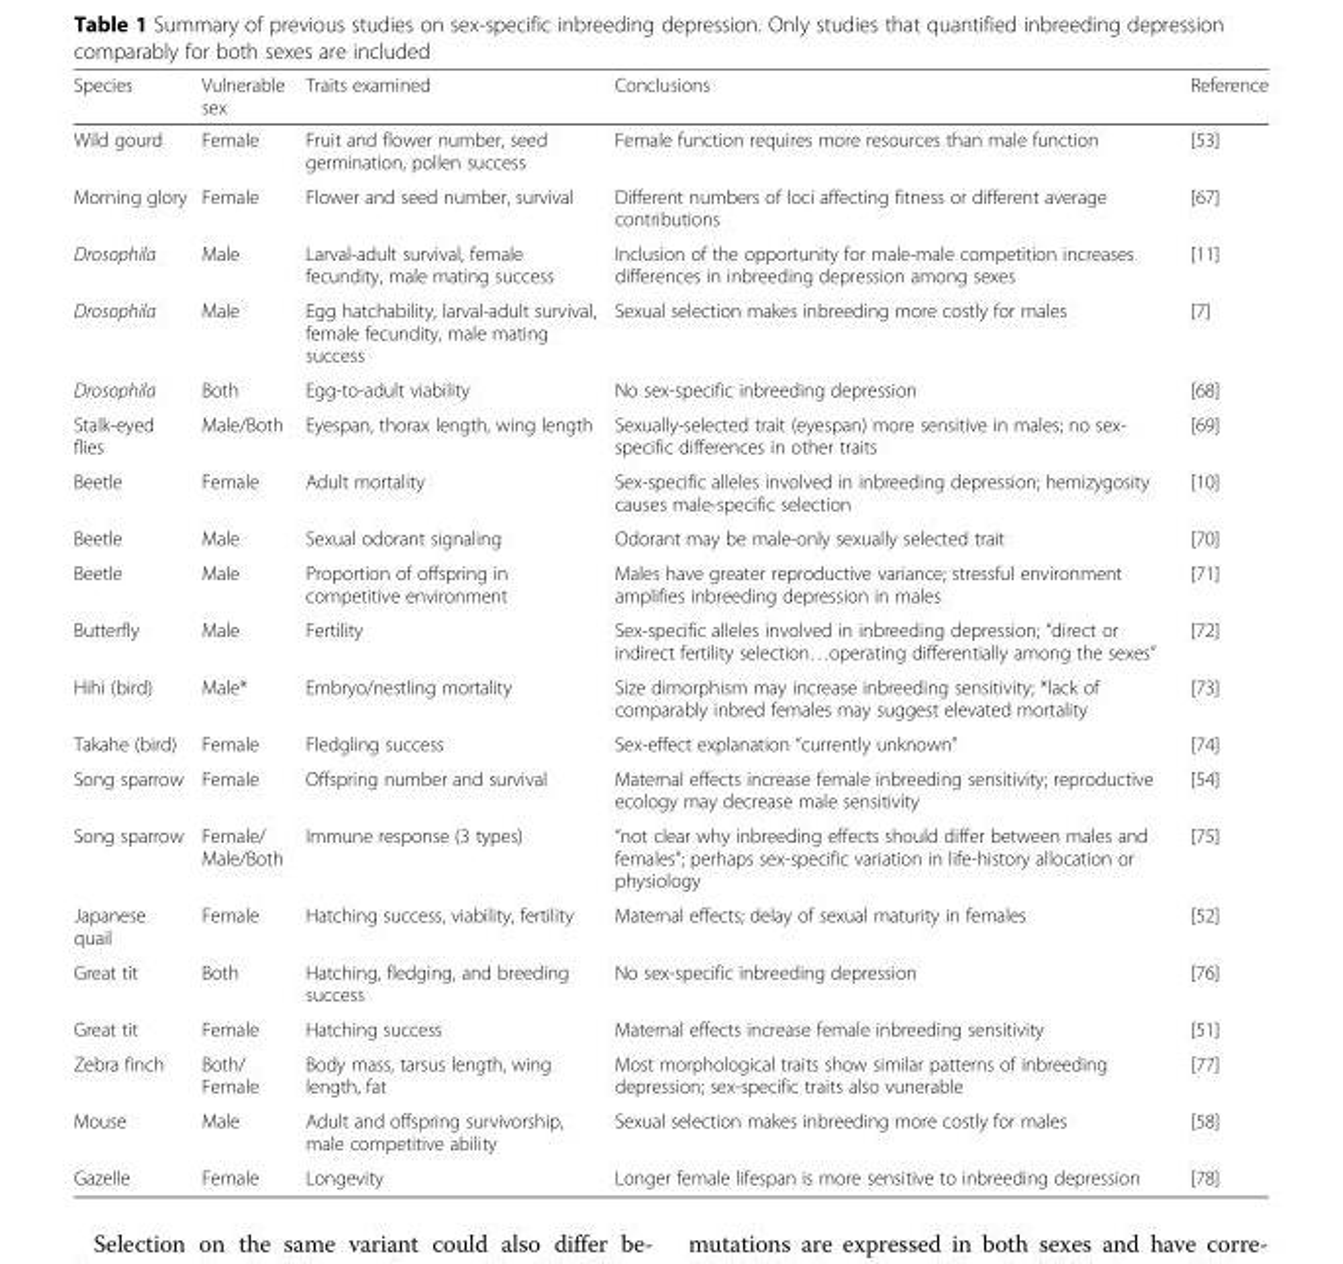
<table><thead><tr><td>Species</td><td>Vulnerable sex</td><td>Traits examined</td><td>Conclusions</td><td>Reference</td></tr></thead><tbody><tr><td>Wild gourd</td><td>Female</td><td>Fruit and flower number, seed germination, pollen success</td><td>Female function requires more resources than male function</td><td>[53]</td></tr><tr><td>Morning glory</td><td>Female</td><td>Flower and seed number, survival</td><td>Different numbers of loci affecting fitness or different average contributions</td><td>[67]</td></tr><tr><td>Drosophila</td><td>Male</td><td>Larval-adult survival, female fecundity, male mating success</td><td>Inclusion of the opportunity for male-male competition increases differences in inbreeding depression among sexes</td><td>[11]</td></tr><tr><td>Drosophila</td><td>Male</td><td>Egg hatchability, larval-adult survival, female fecundity, male mating success</td><td>Sexual selection makes inbreeding more costly for males</td><td>[7]</td></tr><tr><td>Drosophila</td><td>Both</td><td>Egg-to-adult viability</td><td>No sex-specific inbreeding depression</td><td>[68]</td></tr><tr><td>Stalk-eyed flies</td><td>Male/Both</td><td>Eyespan, thorax length, wing length</td><td>Sexually-selected trait (eyespan) more sensitive in males; no sex- specific differences in other traits</td><td>[69]</td></tr><tr><td>Beetle</td><td>Female</td><td>Adult mortality</td><td>Sex-specific alleles involved in inbreeding depression; hemizygosity causes male-specific selection</td><td>[10]</td></tr><tr><td>Beetle</td><td>Male</td><td>Sexual odorant signaling</td><td>Odorant may be male-only sexually selected trait</td><td>[70]</td></tr><tr><td>Beetle</td><td>Male</td><td>Proportion of offspring in competitive environment</td><td>Males have greater reproductive variance; stressful environment amplifies inbreeding depression in males</td><td>[71]</td></tr><tr><td>Butterfly</td><td>Male</td><td>Fertility</td><td>Sex-specific alleles involved in inbreeding depression; “direct or indirect fertility selection…operating differentially among the sexes”</td><td>[72]</td></tr><tr><td>Hihi (bird)</td><td>Male*</td><td>Embryo/nestling mortality</td><td>Size dimorphism may increase inbreeding sensitivity; *lack of comparably inbred females may suggest elevated mortality</td><td>[73]</td></tr><tr><td>Takahe (bird)</td><td>Female</td><td>Fledgling success</td><td>Sex-effect explanation “currently unknown”</td><td>[74]</td></tr><tr><td>Song sparrow</td><td>Female</td><td>Offspring number and survival</td><td>Maternal effects increase female inbreeding sensitivity; reproductive ecology may decrease male sensitivity</td><td>[54]</td></tr><tr><td>Song sparrow</td><td>Female/ Male/Both</td><td>Immune response (3 types)</td><td>“not clear why inbreeding effects should differ between males and females”; perhaps sex-specific variation in life-history allocation or physiology</td><td>[75]</td></tr><tr><td>Japanese quail</td><td>Female</td><td>Hatching success, viability, fertility</td><td>Maternal effects; delay of sexual maturity in females</td><td>[52]</td></tr><tr><td>Great tit</td><td>Both</td><td>Hatching, fledging, and breeding success</td><td>No sex-specific inbreeding depression</td><td>[76]</td></tr><tr><td>Great tit</td><td>Female</td><td>Hatching success</td><td>Maternal effects increase female inbreeding sensitivity</td><td>[51]</td></tr><tr><td>Zebra finch</td><td>Both/ Female</td><td>Body mass, tarsus length, wing length, fat</td><td>Most morphological traits show similar patterns of inbreeding depression; sex-specific traits also vunerable</td><td>[77]</td></tr><tr><td>Mouse</td><td>Male</td><td>Adult and offspring survivorship, male competitive ability</td><td>Sexual selection makes inbreeding more costly for males</td><td>[58]</td></tr><tr><td>Gazelle</td><td>Female</td><td>Longevity</td><td>Longer female lifespan is more sensitive to inbreeding depression</td><td>[78]</td></tr></tbody></table>